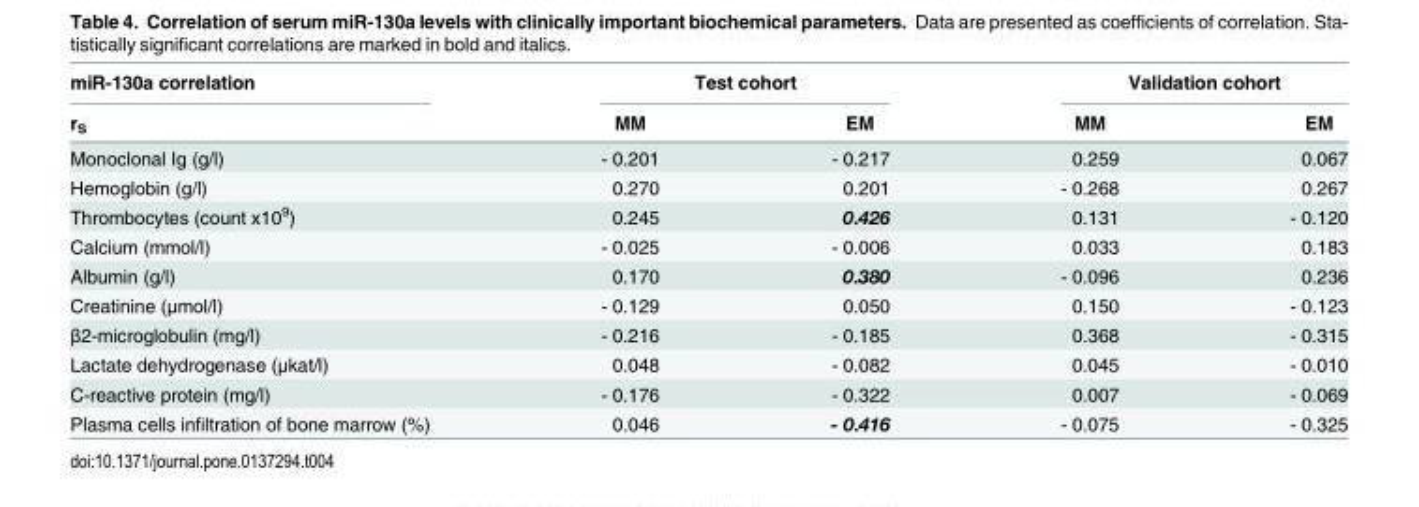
<table><thead><tr><td rowspan="2">miR-130a correlation r<sub>S</sub></td><td colspan="2">Test cohort</td><td colspan="2">Validation cohort</td></tr><tr><td>MM</td><td>EM</td><td>MM</td><td>EM</td></tr></thead><tbody><tr><td>Monoclonal Ig (g/l)</td><td>- 0.201</td><td>- 0.217</td><td>0.259</td><td>0.067</td></tr><tr><td>Hemoglobin (g/l)</td><td>0.270</td><td>0.201</td><td>- 0.268</td><td>0.267</td></tr><tr><td>Thrombocytes (count x10<sup>9</sup>)</td><td>0.245</td><td>0.426</td><td>0.131</td><td>- 0.120</td></tr><tr><td>Calcium (mmol/l)</td><td>- 0.025</td><td>- 0.006</td><td>0.033</td><td>0.183</td></tr><tr><td>Albumin (g/l)</td><td>0.170</td><td>0.380</td><td>- 0.096</td><td>0.236</td></tr><tr><td>Creatinine (μmol/l)</td><td>- 0.129</td><td>0.050</td><td>0.150</td><td>- 0.123</td></tr><tr><td>β2-microglobulin (mg/l)</td><td>- 0.216</td><td>- 0.185</td><td>0.368</td><td>- 0.315</td></tr><tr><td>Lactate dehydrogenase (μkat/l)</td><td>0.048</td><td>- 0.082</td><td>0.045</td><td>- 0.010</td></tr><tr><td>C-reactive protein (mg/l)</td><td>- 0.176</td><td>- 0.322</td><td>0.007</td><td>- 0.069</td></tr><tr><td>Plasma cells infiltration of bone marrow (%)</td><td>0.046</td><td>- 0.416</td><td>- 0.075</td><td>- 0.325</td></tr></tbody></table>